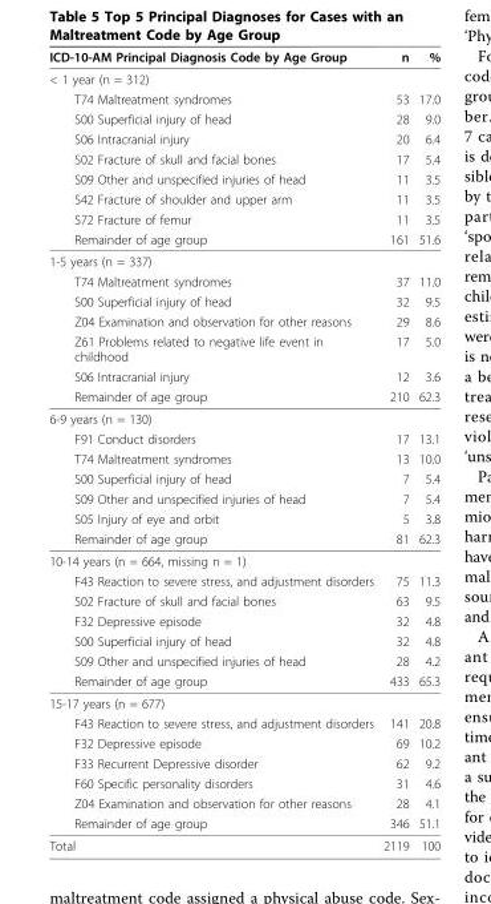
<table><thead><tr><td>ICD-10-AM Principal Diagnosis Code by Age Group</td><td>n</td><td>%</td></tr></thead><tbody><tr><td colspan="3">&lt; 1 year (n = 312)</td></tr><tr><td>T74 Maltreatment syndromes</td><td>53</td><td>17.0</td></tr><tr><td>S00 Superficial injury of head</td><td>28</td><td>9.0</td></tr><tr><td>S06 Intracranial injury</td><td>20</td><td>6.4</td></tr><tr><td>S02 Fracture of skull and facial bones</td><td>17</td><td>5.4</td></tr><tr><td>S09 Other and unspecified injuries of head</td><td>11</td><td>3.5</td></tr><tr><td>S42 Fracture of shoulder and upper arm</td><td>11</td><td>3.5</td></tr><tr><td>S72 Fracture of femur</td><td>11</td><td>3.5</td></tr><tr><td>Remainder of age group</td><td>161</td><td>51.6</td></tr><tr><td colspan="3">1-5 years (n = 337)</td></tr><tr><td>T74 Maltreatment syndromes</td><td>37</td><td>11.0</td></tr><tr><td>S00 Superficial injury of head</td><td>32</td><td>9.5</td></tr><tr><td>Z04 Examination and observation for other reasons</td><td>29</td><td>8.6</td></tr><tr><td>Z61 Problems related to negative life event in childhood</td><td>17</td><td>5.0</td></tr><tr><td>S06 Intracranial injury</td><td>12</td><td>3.6</td></tr><tr><td>Remainder of age group</td><td>210</td><td>62.3</td></tr><tr><td colspan="3">6-9 years (n = 130)</td></tr><tr><td>F91 Conduct disorders</td><td>17</td><td>13.1</td></tr><tr><td>T74 Maltreatment syndromes</td><td>13</td><td>10.0</td></tr><tr><td>S00 Superficial injury of head</td><td>7</td><td>5.4</td></tr><tr><td>S09 Other and unspecified injuries of head</td><td>7</td><td>5.4</td></tr><tr><td>S05 Injury of eye and orbit</td><td>5</td><td>3.8</td></tr><tr><td>Remainder of age group</td><td>81</td><td>62.3</td></tr><tr><td colspan="3">10-14 years (n = 664, missing n = 1)</td></tr><tr><td>F43 Reaction to severe stress, and adjustment disorders</td><td>75</td><td>11.3</td></tr><tr><td>S02 Fracture of skull and facial bones</td><td>63</td><td>9.5</td></tr><tr><td>F32 Depressive episode</td><td>32</td><td>4.8</td></tr><tr><td>S00 Superficial injury of head</td><td>32</td><td>4.8</td></tr><tr><td>S09 Other and unspecified injuries of head</td><td>28</td><td>4.2</td></tr><tr><td>Remainder of age group</td><td>433</td><td>65.3</td></tr><tr><td colspan="3">15-17 years (n = 677)</td></tr><tr><td>F43 Reaction to severe stress, and adjustment disorders</td><td>141</td><td>20.8</td></tr><tr><td>F32 Depressive episode</td><td>69</td><td>10.2</td></tr><tr><td>F33 Recurrent Depressive disorder</td><td>62</td><td>9.2</td></tr><tr><td>F60 Specific personality disorders</td><td>31</td><td>4.6</td></tr><tr><td>Z04 Examination and observation for other reasons</td><td>28</td><td>4.1</td></tr><tr><td>Remainder of age group</td><td>346</td><td>51.1</td></tr><tr><td>Total</td><td>2119</td><td>100</td></tr></tbody></table>